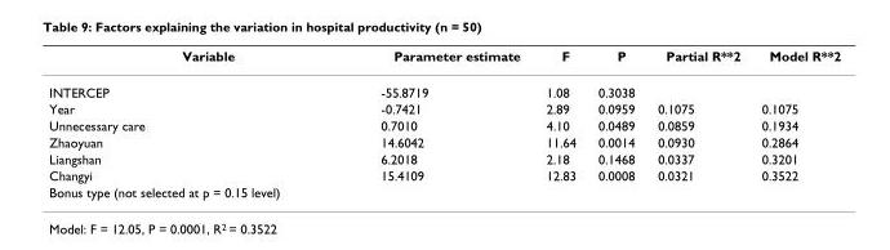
<table><thead><tr><td>Variable</td><td>Parameter estimate</td><td>F</td><td>P</td><td>Partial R**2</td><td>Model R**2</td></tr></thead><tbody><tr><td>INTERCEP</td><td>-55.8719</td><td>1.08</td><td>0.3038</td><td></td><td></td></tr><tr><td>Year</td><td>-0.7421</td><td>2.89</td><td>0.0959</td><td>0.1075</td><td>0.1075</td></tr><tr><td>Unnecessary care</td><td>0.7010</td><td>4.10</td><td>0.0489</td><td>0.0859</td><td>0.1934</td></tr><tr><td>Zhaoyuan</td><td>14.6042</td><td>11.64</td><td>0.0014</td><td>0.0930</td><td>0.2864</td></tr><tr><td>Liangshan</td><td>6.2018</td><td>2.18</td><td>0.1468</td><td>0.0337</td><td>0.3201</td></tr><tr><td>Changyi</td><td>15.4109</td><td>12.83</td><td>0.0008</td><td>0.0321</td><td>0.3522</td></tr><tr><td>Bonus type (not selected at p = 0.15 level)</td><td></td><td></td><td></td><td></td><td></td></tr></tbody></table>